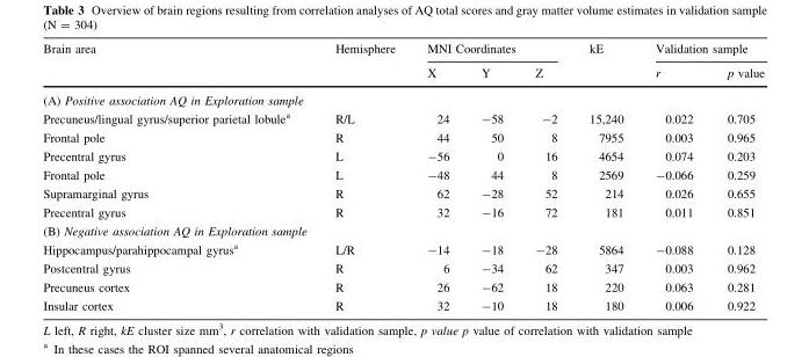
<table><thead><tr><td rowspan="2">Brain area</td><td rowspan="2">Hemisphere</td><td colspan="3">MNI Coordinates</td><td rowspan="2">kE</td><td colspan="2">Validation sample</td></tr><tr><td>X</td><td>Y</td><td>Z</td><td>r</td><td>p value</td></tr></thead><tbody><tr><td colspan="8">(A) Positive association AQ in Exploration sample</td></tr><tr><td>Precuneus/lingual gyrus/superior parietal lobule<sup>a</sup></td><td>R/L</td><td>24</td><td>-58</td><td>-2</td><td>15,240</td><td>0.022</td><td>0.705</td></tr><tr><td>Frontal pole</td><td>R</td><td>44</td><td>50</td><td>8</td><td>7955</td><td>0.003</td><td>0.965</td></tr><tr><td>Precentral gyrus</td><td>L</td><td>-56</td><td>0</td><td>16</td><td>4654</td><td>0.074</td><td>0.203</td></tr><tr><td>Frontal pole</td><td>L</td><td>-48</td><td>44</td><td>8</td><td>2569</td><td>-0.066</td><td>0.259</td></tr><tr><td>Supramarginal gyrus</td><td>R</td><td>62</td><td>-28</td><td>52</td><td>214</td><td>0.026</td><td>0.655</td></tr><tr><td>Precentral gyrus</td><td>R</td><td>32</td><td>-16</td><td>72</td><td>181</td><td>0.011</td><td>0.851</td></tr><tr><td colspan="8">(B) Negative association AQ in Exploration sample</td></tr><tr><td>Hippocampus/parahippocampal gyrus<sup>a</sup></td><td>L/R</td><td>-14</td><td>-18</td><td>-28</td><td>5864</td><td>-0.088</td><td>0.128</td></tr><tr><td>Postcentral gyrus</td><td>R</td><td>6</td><td>-34</td><td>62</td><td>347</td><td>0.003</td><td>0.962</td></tr><tr><td>Precuneus cortex</td><td>R</td><td>26</td><td>-62</td><td>18</td><td>220</td><td>0.063</td><td>0.281</td></tr><tr><td>Insular cortex</td><td>R</td><td>32</td><td>-10</td><td>18</td><td>180</td><td>0.006</td><td>0.922</td></tr></tbody></table>